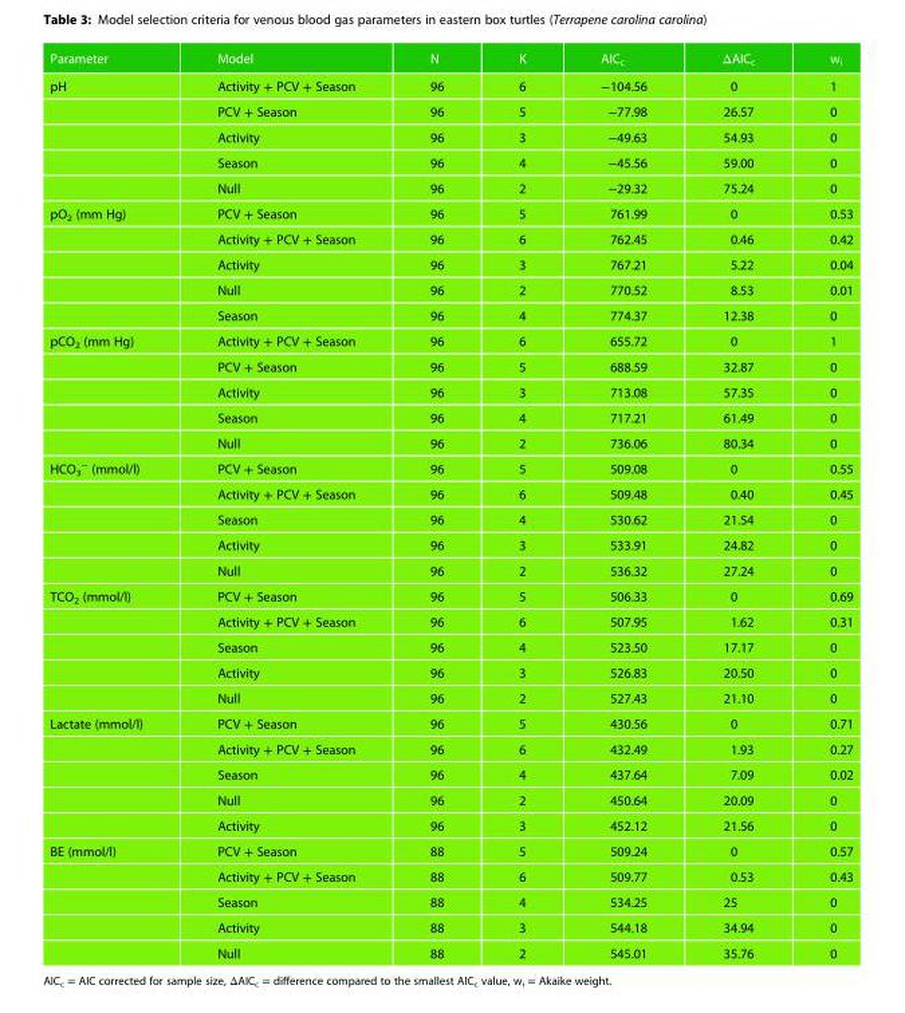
<table><thead><tr><td>Parameter</td><td>Model</td><td>N</td><td>K</td><td>AIC<sub>c</sub></td><td>ΔAIC<sub>c</sub></td><td>w<sub>i</sub></td></tr></thead><tbody><tr><td rowspan="5">pH</td><td>Activity + PCV + Season</td><td>96</td><td>6</td><td>−104.56</td><td>0</td><td>1</td></tr><tr><td>PCV + Season</td><td>96</td><td>5</td><td>−77.98</td><td>26.57</td><td>0</td></tr><tr><td>Activity</td><td>96</td><td>3</td><td>−49.63</td><td>54.93</td><td>0</td></tr><tr><td>Season</td><td>96</td><td>4</td><td>−45.56</td><td>59.00</td><td>0</td></tr><tr><td>Null</td><td>96</td><td>2</td><td>−29.32</td><td>75.24</td><td>0</td></tr><tr><td rowspan="5">pO<sub>2</sub> (mm Hg)</td><td>PCV + Season</td><td>96</td><td>5</td><td>761.99</td><td>0</td><td>0.53</td></tr><tr><td>Activity + PCV + Season</td><td>96</td><td>6</td><td>762.45</td><td>0.46</td><td>0.42</td></tr><tr><td>Activity</td><td>96</td><td>3</td><td>767.21</td><td>5.22</td><td>0.04</td></tr><tr><td>Null</td><td>96</td><td>2</td><td>770.52</td><td>8.53</td><td>0.01</td></tr><tr><td>Season</td><td>96</td><td>4</td><td>774.37</td><td>12.38</td><td>0</td></tr><tr><td rowspan="5">pCO<sub>2</sub> (mm Hg)</td><td>Activity + PCV + Season</td><td>96</td><td>6</td><td>655.72</td><td>0</td><td>1</td></tr><tr><td>PCV + Season</td><td>96</td><td>5</td><td>688.59</td><td>32.87</td><td>0</td></tr><tr><td>Activity</td><td>96</td><td>3</td><td>713.08</td><td>57.35</td><td>0</td></tr><tr><td>Season</td><td>96</td><td>4</td><td>717.21</td><td>61.49</td><td>0</td></tr><tr><td>Null</td><td>96</td><td>2</td><td>736.06</td><td>80.34</td><td>0</td></tr><tr><td rowspan="5">HCO<sub>3</sub> <sup>−</sup> (mmol/l)</td><td>PCV + Season</td><td>96</td><td>5</td><td>509.08</td><td>0</td><td>0.55</td></tr><tr><td>Activity + PCV + Season</td><td>96</td><td>6</td><td>509.48</td><td>0.40</td><td>0.45</td></tr><tr><td>Season</td><td>96</td><td>4</td><td>530.62</td><td>21.54</td><td>0</td></tr><tr><td>Activity</td><td>96</td><td>3</td><td>533.91</td><td>24.82</td><td>0</td></tr><tr><td>Null</td><td>96</td><td>2</td><td>536.32</td><td>27.24</td><td>0</td></tr><tr><td rowspan="5">TCO<sub>2</sub> (mmol/l)</td><td>PCV + Season</td><td>96</td><td>5</td><td>506.33</td><td>0</td><td>0.69</td></tr><tr><td>Activity + PCV + Season</td><td>96</td><td>6</td><td>507.95</td><td>1.62</td><td>0.31</td></tr><tr><td>Season</td><td>96</td><td>4</td><td>523.50</td><td>17.17</td><td>0</td></tr><tr><td>Activity</td><td>96</td><td>3</td><td>526.83</td><td>20.50</td><td>0</td></tr><tr><td>Null</td><td>96</td><td>2</td><td>527.43</td><td>21.10</td><td>0</td></tr><tr><td rowspan="5">Lactate (mmol/l)</td><td>PCV + Season</td><td>96</td><td>5</td><td>430.56</td><td>0</td><td>0.71</td></tr><tr><td>Activity + PCV + Season</td><td>96</td><td>6</td><td>432.49</td><td>1.93</td><td>0.27</td></tr><tr><td>Season</td><td>96</td><td>4</td><td>437.64</td><td>7.09</td><td>0.02</td></tr><tr><td>Null</td><td>96</td><td>2</td><td>450.64</td><td>20.09</td><td>0</td></tr><tr><td>Activity</td><td>96</td><td>3</td><td>452.12</td><td>21.56</td><td>0</td></tr><tr><td rowspan="5">BE (mmol/l)</td><td>PCV + Season</td><td>88</td><td>5</td><td>509.24</td><td>0</td><td>0.57</td></tr><tr><td>Activity + PCV + Season</td><td>88</td><td>6</td><td>509.77</td><td>0.53</td><td>0.43</td></tr><tr><td>Season</td><td>88</td><td>4</td><td>534.25</td><td>25</td><td>0</td></tr><tr><td>Activity</td><td>88</td><td>3</td><td>544.18</td><td>34.94</td><td>0</td></tr><tr><td>Null</td><td>88</td><td>2</td><td>545.01</td><td>35.76</td><td>0</td></tr></tbody></table>